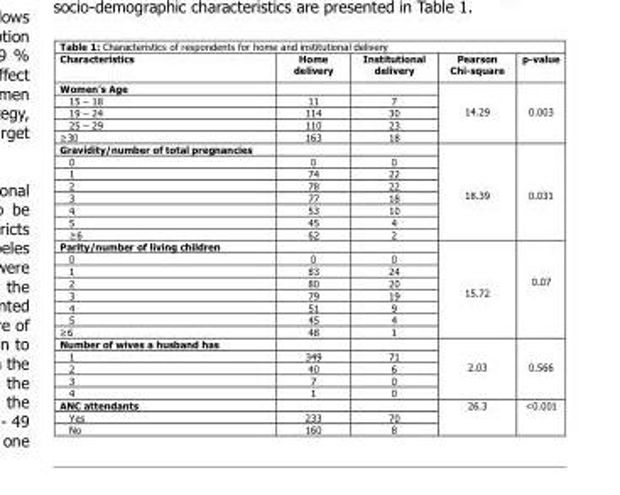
<table><thead><tr><td>Characteristics</td><td>Home delivery</td><td>Institutional delivery</td><td>Pearson Chi-square</td><td>p-value</td></tr></thead><tbody><tr><td colspan="3">Women&#x27;s Age</td><td rowspan="5">14.29</td><td rowspan="5">0.003</td></tr><tr><td>15 – 18</td><td>11</td><td>7</td></tr><tr><td>19 – 24</td><td>114</td><td>30</td></tr><tr><td>25 – 29</td><td>110</td><td>23</td></tr><tr><td>≥30</td><td>163</td><td>18</td></tr><tr><td colspan="3">Gravidity/number of total pregnancies</td><td rowspan="8">18.39</td><td rowspan="8">0.031</td></tr><tr><td>0</td><td>0</td><td>0</td></tr><tr><td>1</td><td>74</td><td>22</td></tr><tr><td>2</td><td>78</td><td>22</td></tr><tr><td>3</td><td>77</td><td>18</td></tr><tr><td>4</td><td>53</td><td>10</td></tr><tr><td>5</td><td>45</td><td>4</td></tr><tr><td>≥6</td><td>62</td><td>2</td></tr><tr><td colspan="3">Parity/number of living children</td><td rowspan="8">15.72</td><td rowspan="8">0.07</td></tr><tr><td>0</td><td>0</td><td>0</td></tr><tr><td>1</td><td>83</td><td>24</td></tr><tr><td>2</td><td>80</td><td>20</td></tr><tr><td>3</td><td>79</td><td>19</td></tr><tr><td>4</td><td>51</td><td>9</td></tr><tr><td>5</td><td>45</td><td>4</td></tr><tr><td>≥6</td><td>48</td><td>1</td></tr><tr><td colspan="3">Number of wives a husband has</td><td rowspan="5">2.03</td><td rowspan="5">0.566</td></tr><tr><td>1</td><td>349</td><td>71</td></tr><tr><td>2</td><td>40</td><td>6</td></tr><tr><td>3</td><td>7</td><td>0</td></tr><tr><td>4</td><td>1</td><td>0</td></tr><tr><td colspan="3">ANC attendants</td><td rowspan="3">26.3</td><td rowspan="3">&lt;0.001</td></tr><tr><td>Yes</td><td>233</td><td>70</td></tr><tr><td>No</td><td>160</td><td>8</td></tr></tbody></table>